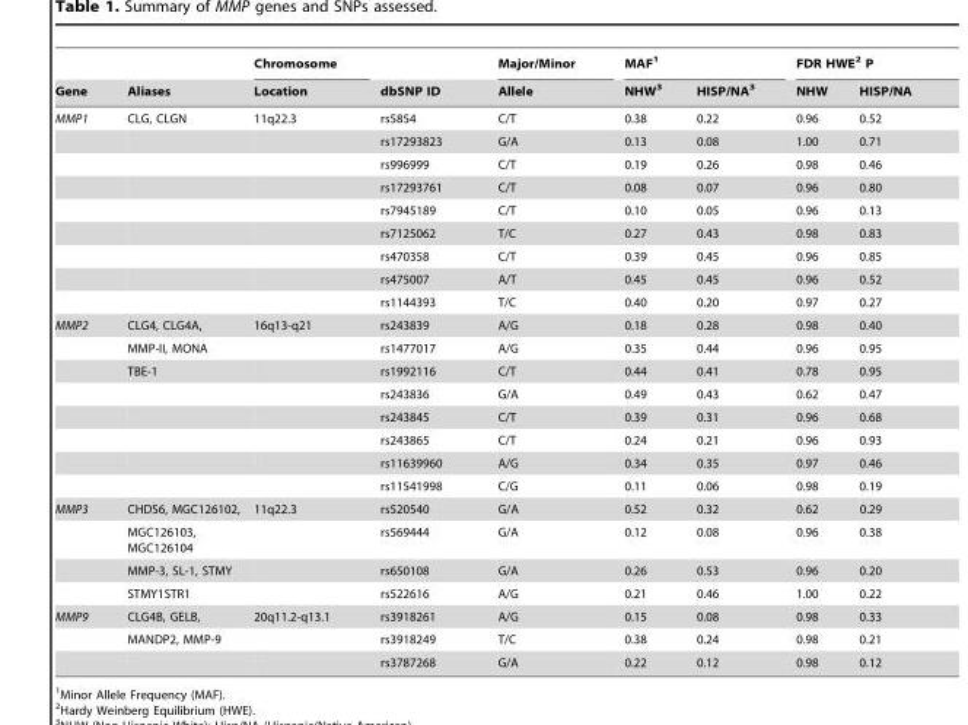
<table><thead><tr><td rowspan="2">Gene</td><td rowspan="2">Aliases</td><td rowspan="2">Chromosome Location</td><td rowspan="2">dbSNP ID</td><td rowspan="2">Major/Minor Allele</td><td colspan="2">MAF<sup>1</sup></td><td colspan="2">FDR HWE<sup>2</sup> P</td></tr><tr><td>NHW<sup>3</sup></td><td>HISP/NA<sup>3</sup></td><td>NHW</td><td>HISP/NA</td></tr></thead><tbody><tr><td rowspan="9">MMP1</td><td>CLG, CLGN</td><td>11q22.3</td><td>rs5854</td><td>C/T</td><td>0.38</td><td>0.22</td><td>0.96</td><td>0.52</td></tr><tr><td></td><td></td><td>rs17293823</td><td>G/A</td><td>0.13</td><td>0.08</td><td>1.00</td><td>0.71</td></tr><tr><td></td><td></td><td>rs996999</td><td>C/T</td><td>0.19</td><td>0.26</td><td>0.98</td><td>0.46</td></tr><tr><td></td><td></td><td>rs17293761</td><td>C/T</td><td>0.08</td><td>0.07</td><td>0.96</td><td>0.80</td></tr><tr><td></td><td></td><td>rs7945189</td><td>C/T</td><td>0.10</td><td>0.05</td><td>0.96</td><td>0.13</td></tr><tr><td></td><td></td><td>rs7125062</td><td>T/C</td><td>0.27</td><td>0.43</td><td>0.98</td><td>0.83</td></tr><tr><td></td><td></td><td>rs470358</td><td>C/T</td><td>0.39</td><td>0.45</td><td>0.96</td><td>0.85</td></tr><tr><td></td><td></td><td>rs475007</td><td>A/T</td><td>0.45</td><td>0.45</td><td>0.96</td><td>0.52</td></tr><tr><td></td><td></td><td>rs1144393</td><td>T/C</td><td>0.40</td><td>0.20</td><td>0.97</td><td>0.27</td></tr><tr><td rowspan="8">MMP2</td><td>CLG4, CLG4A,</td><td>16q13-q21</td><td>rs243839</td><td>A/G</td><td>0.18</td><td>0.28</td><td>0.98</td><td>0.40</td></tr><tr><td>MMP-II, MONA</td><td></td><td>rs1477017</td><td>A/G</td><td>0.35</td><td>0.44</td><td>0.96</td><td>0.95</td></tr><tr><td>TBE-1</td><td></td><td>rs1992116</td><td>C/T</td><td>0.44</td><td>0.41</td><td>0.78</td><td>0.95</td></tr><tr><td></td><td></td><td>rs243836</td><td>G/A</td><td>0.49</td><td>0.43</td><td>0.62</td><td>0.47</td></tr><tr><td></td><td></td><td>rs243845</td><td>C/T</td><td>0.39</td><td>0.31</td><td>0.96</td><td>0.68</td></tr><tr><td></td><td></td><td>rs243865</td><td>C/T</td><td>0.24</td><td>0.21</td><td>0.96</td><td>0.93</td></tr><tr><td></td><td></td><td>rs11639960</td><td>A/G</td><td>0.34</td><td>0.35</td><td>0.97</td><td>0.46</td></tr><tr><td></td><td></td><td>rs11541998</td><td>C/G</td><td>0.11</td><td>0.06</td><td>0.98</td><td>0.19</td></tr><tr><td rowspan="4">MMP3</td><td>CHDS6, MGC126102,</td><td>11q22.3</td><td>rs520540</td><td>G/A</td><td>0.52</td><td>0.32</td><td>0.62</td><td>0.29</td></tr><tr><td>MGC126103, MGC126104</td><td></td><td>rs569444</td><td>G/A</td><td>0.12</td><td>0.08</td><td>0.96</td><td>0.38</td></tr><tr><td>MMP-3, SL-1, STMY</td><td></td><td>rs650108</td><td>G/A</td><td>0.26</td><td>0.53</td><td>0.96</td><td>0.20</td></tr><tr><td>STMY1STR1</td><td></td><td>rs522616</td><td>A/G</td><td>0.21</td><td>0.46</td><td>1.00</td><td>0.22</td></tr><tr><td rowspan="3">MMP9</td><td>CLG4B, GELB,</td><td>20q11.2-q13.1</td><td>rs3918261</td><td>A/G</td><td>0.15</td><td>0.08</td><td>0.98</td><td>0.33</td></tr><tr><td>MANDP2, MMP-9</td><td></td><td>rs3918249</td><td>T/C</td><td>0.38</td><td>0.24</td><td>0.98</td><td>0.21</td></tr><tr><td></td><td></td><td>rs3787268</td><td>G/A</td><td>0.22</td><td>0.12</td><td>0.98</td><td>0.12</td></tr></tbody></table>